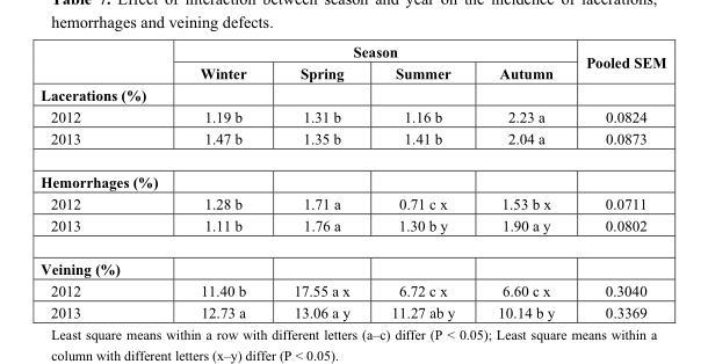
<table><thead><tr><td rowspan="2"></td><td colspan="4">Season</td><td rowspan="2">Pooled SEM</td></tr><tr><td>Winter</td><td>Spring</td><td>Summer</td><td>Autumn</td></tr></thead><tbody><tr><td colspan="6">Lacerations (%)</td></tr><tr><td>2012</td><td>1.19 b</td><td>1.31 b</td><td>1.16 b</td><td>2.23 a</td><td>0.0824</td></tr><tr><td>2013</td><td>1.47 b</td><td>1.35 b</td><td>1.41 b</td><td>2.04 a</td><td>0.0873</td></tr><tr><td colspan="6">Hemorrhages (%)</td></tr><tr><td>2012</td><td>1.28 b</td><td>1.71 a</td><td>0.71 c x</td><td>1.53 b x</td><td>0.0711</td></tr><tr><td>2013</td><td>1.11 b</td><td>1.76 a</td><td>1.30 b y</td><td>1.90 a y</td><td>0.0802</td></tr><tr><td colspan="6">Veining (%)</td></tr><tr><td>2012</td><td>11.40 b</td><td>17.55 a x</td><td>6.72 c x</td><td>6.60 c x</td><td>0.3040</td></tr><tr><td>2013</td><td>12.73 a</td><td>13.06 a y</td><td>11.27 ab y</td><td>10.14 b y</td><td>0.3369</td></tr></tbody></table>